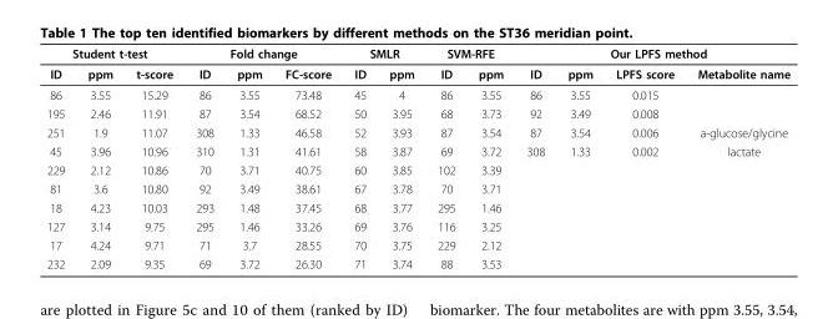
<table><thead><tr><td colspan="3">Student t-test</td><td colspan="3">Fold change</td><td colspan="2">SMLR</td><td colspan="2">SVM-RFE</td><td colspan="4">Our LPFS method</td></tr><tr><td>ID</td><td>ppm</td><td>t-score</td><td>ID</td><td>ppm</td><td>FC-score</td><td>ID</td><td>ppm</td><td>ID</td><td>ppm</td><td>ID</td><td>ppm</td><td>LPFS score</td><td>Metabolite name</td></tr></thead><tbody><tr><td>86</td><td>3.55</td><td>15.29</td><td>86</td><td>3.55</td><td>73.48</td><td>45</td><td>4</td><td>86</td><td>3.55</td><td>86</td><td>3.55</td><td>0.015</td><td></td></tr><tr><td>195</td><td>2.46</td><td>11.91</td><td>87</td><td>3.54</td><td>68.52</td><td>50</td><td>3.95</td><td>68</td><td>3.73</td><td>92</td><td>3.49</td><td>0.008</td><td></td></tr><tr><td>251</td><td>1.9</td><td>11.07</td><td>308</td><td>1.33</td><td>46.58</td><td>52</td><td>3.93</td><td>87</td><td>3.54</td><td>87</td><td>3.54</td><td>0.006</td><td>a-glucose/glycine</td></tr><tr><td>45</td><td>3.96</td><td>10.96</td><td>310</td><td>1.31</td><td>41.61</td><td>58</td><td>3.87</td><td>69</td><td>3.72</td><td>308</td><td>1.33</td><td>0.002</td><td>lactate</td></tr><tr><td>229</td><td>2.12</td><td>10.86</td><td>70</td><td>3.71</td><td>40.75</td><td>60</td><td>3.85</td><td>102</td><td>3.39</td><td></td><td></td><td></td><td></td></tr><tr><td>81</td><td>3.6</td><td>10.80</td><td>92</td><td>3.49</td><td>38.61</td><td>67</td><td>3.78</td><td>70</td><td>3.71</td><td></td><td></td><td></td><td></td></tr><tr><td>18</td><td>4.23</td><td>10.03</td><td>293</td><td>1.48</td><td>37.45</td><td>68</td><td>3.77</td><td>295</td><td>1.46</td><td></td><td></td><td></td><td></td></tr><tr><td>127</td><td>3.14</td><td>9.75</td><td>295</td><td>1.46</td><td>33.26</td><td>69</td><td>3.76</td><td>116</td><td>3.25</td><td></td><td></td><td></td><td></td></tr><tr><td>17</td><td>4.24</td><td>9.71</td><td>71</td><td>3.7</td><td>28.55</td><td>70</td><td>3.75</td><td>229</td><td>2.12</td><td></td><td></td><td></td><td></td></tr><tr><td>232</td><td>2.09</td><td>9.35</td><td>69</td><td>3.72</td><td>26.30</td><td>71</td><td>3.74</td><td>88</td><td>3.53</td><td></td><td></td><td></td><td></td></tr></tbody></table>